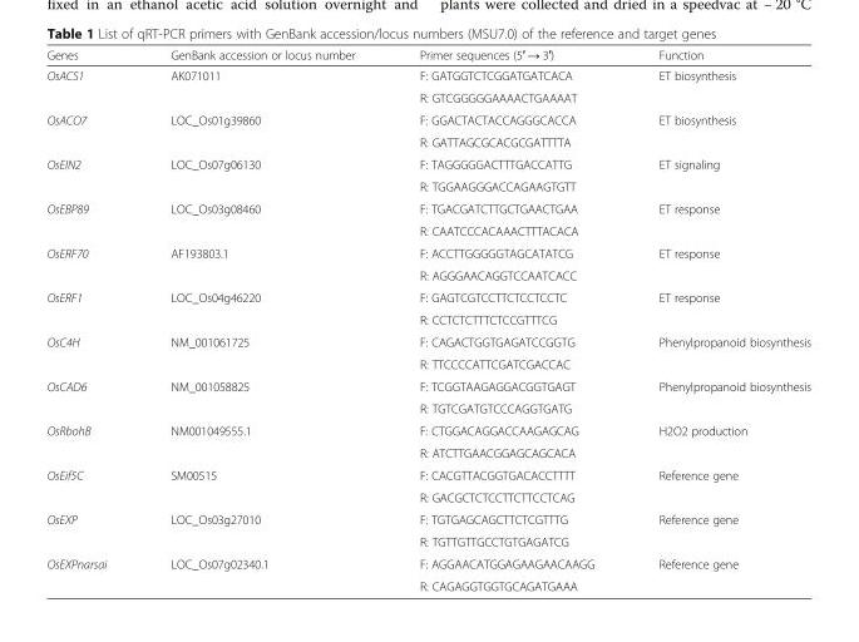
<table><thead><tr><td>Genes</td><td>GenBank accession or locus number</td><td>Primer sequences (5′ → 3′)</td><td>Function</td></tr></thead><tbody><tr><td rowspan="2">OsACS1</td><td rowspan="2">AK071011</td><td>F: GATGGTCTCGGATGATCACA</td><td rowspan="2">ET biosynthesis</td></tr><tr><td>R: GTCGGGGGAAAACTGAAAAT</td></tr><tr><td rowspan="2">OsACO7</td><td rowspan="2">LOC_Os01g39860</td><td>F: GGACTACTACCAGGGCACCA</td><td rowspan="2">ET biosynthesis</td></tr><tr><td>R: GATTAGCGCACGCGATTTTA</td></tr><tr><td rowspan="2">OsEIN2</td><td rowspan="2">LOC_Os07g06130</td><td>F: TAGGGGGACTTTGACCATTG</td><td rowspan="2">ET signaling</td></tr><tr><td>R: TGGAAGGGACCAGAAGTGTT</td></tr><tr><td rowspan="2">OsEBP89</td><td rowspan="2">LOC_Os03g08460</td><td>F: TGACGATCTTGCTGAACTGAA</td><td rowspan="2">ET response</td></tr><tr><td>R: CAATCCCACAAACTTTACACA</td></tr><tr><td rowspan="2">OsERF70</td><td rowspan="2">AF193803.1</td><td>F: ACCTTGGGGGTAGCATATCG</td><td rowspan="2">ET response</td></tr><tr><td>R: AGGGAACAGGTCCAATCACC</td></tr><tr><td rowspan="2">OsERF1</td><td rowspan="2">LOC_Os04g46220</td><td>F: GAGTCGTCCTTCTCCTCCTC</td><td rowspan="2">ET response</td></tr><tr><td>R: CCTCTCTTTCTCCGTTTCG</td></tr><tr><td rowspan="2">OsC4H</td><td rowspan="2">NM_001061725</td><td>F: CAGACTGGTGAGATCCGGTG</td><td rowspan="2">Phenylpropanoid biosynthesis</td></tr><tr><td>R: TTCCCCATTCGATCGACCAC</td></tr><tr><td rowspan="2">OsCAD6</td><td rowspan="2">NM_001058825</td><td>F: TCGGTAAGAGGACGGTGAGT</td><td rowspan="2">Phenylpropanoid biosynthesis</td></tr><tr><td>R: TGTCGATGTCCCAGGTGATG</td></tr><tr><td rowspan="2">OsRbohB</td><td rowspan="2">NM001049555.1</td><td>F: CTGGACAGGACCAAGAGCAG</td><td rowspan="2">H2O2 production</td></tr><tr><td>R: ATCTTGAACGGAGCAGCACA</td></tr><tr><td rowspan="2">OsEif5C</td><td rowspan="2">SM00515</td><td>F: CACGTTACGGTGACACCTTTT</td><td rowspan="2">Reference gene</td></tr><tr><td>R: GACGCTCTCCTTCTTCCTCAG</td></tr><tr><td rowspan="2">OsEXP</td><td rowspan="2">LOC_Os03g27010</td><td>F: TGTGAGCAGCTTCTCGTTTG</td><td rowspan="2">Reference gene</td></tr><tr><td>R: TGTTGTTGCCTGTGAGATCG</td></tr><tr><td rowspan="2">OsEXPnarsai</td><td rowspan="2">LOC_Os07g02340.1</td><td>F: AGGAACATGGAGAAGAACAAGG</td><td rowspan="2">Reference gene</td></tr><tr><td>R: CAGAGGTGGTGCAGATGAAA</td></tr></tbody></table>